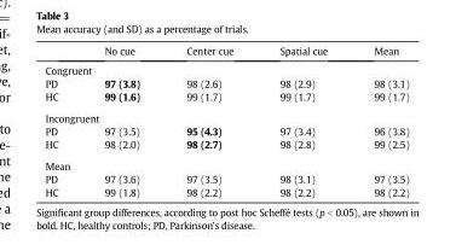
<table><thead><tr><td></td><td>No cue</td><td>Center cue</td><td>Spatial cue</td><td>Mean</td></tr></thead><tbody><tr><td colspan="5">Congruent</td></tr><tr><td>PD</td><td>97 (3.8)</td><td>98 (2.6)</td><td>98 (2.9)</td><td>98 (3.1)</td></tr><tr><td>HC</td><td>99 (1.6)</td><td>99 (1.7)</td><td>99 (1.7)</td><td>99 (1.7)</td></tr><tr><td colspan="5">Incongruent</td></tr><tr><td>PD</td><td>97 (3.5)</td><td>95 (4.3)</td><td>97 (3.4)</td><td>96 (3.8)</td></tr><tr><td>HC</td><td>98 (2.0)</td><td>98 (2.7)</td><td>98 (2.8)</td><td>99 (2.5)</td></tr><tr><td colspan="5">Mean</td></tr><tr><td>PD</td><td>97 (3.6)</td><td>97 (3.5)</td><td>98 (3.1)</td><td>97 (3.5)</td></tr><tr><td>HC</td><td>99 (1.8)</td><td>98 (2.2)</td><td>98 (2.2)</td><td>98 (2.2)</td></tr></tbody></table>